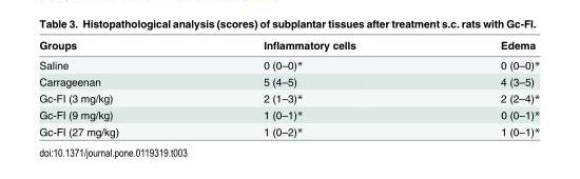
<table><thead><tr><td>Groups</td><td>Inflammatory cells</td><td>Edema</td></tr></thead><tbody><tr><td>Saline</td><td>0 (0–0)*</td><td>0 (0–0)*</td></tr><tr><td>Carrageenan</td><td>5 (4–5)</td><td>4 (3–5)</td></tr><tr><td>Gc-FI (3 mg/kg)</td><td>2 (1–3)*</td><td>2 (2–4)*</td></tr><tr><td>Gc-FI (9 mg/kg)</td><td>1 (0–1)*</td><td>0 (0–1)*</td></tr><tr><td>Gc-FI (27 mg/kg)</td><td>1 (0–2)*</td><td>1 (0–1)*</td></tr></tbody></table>